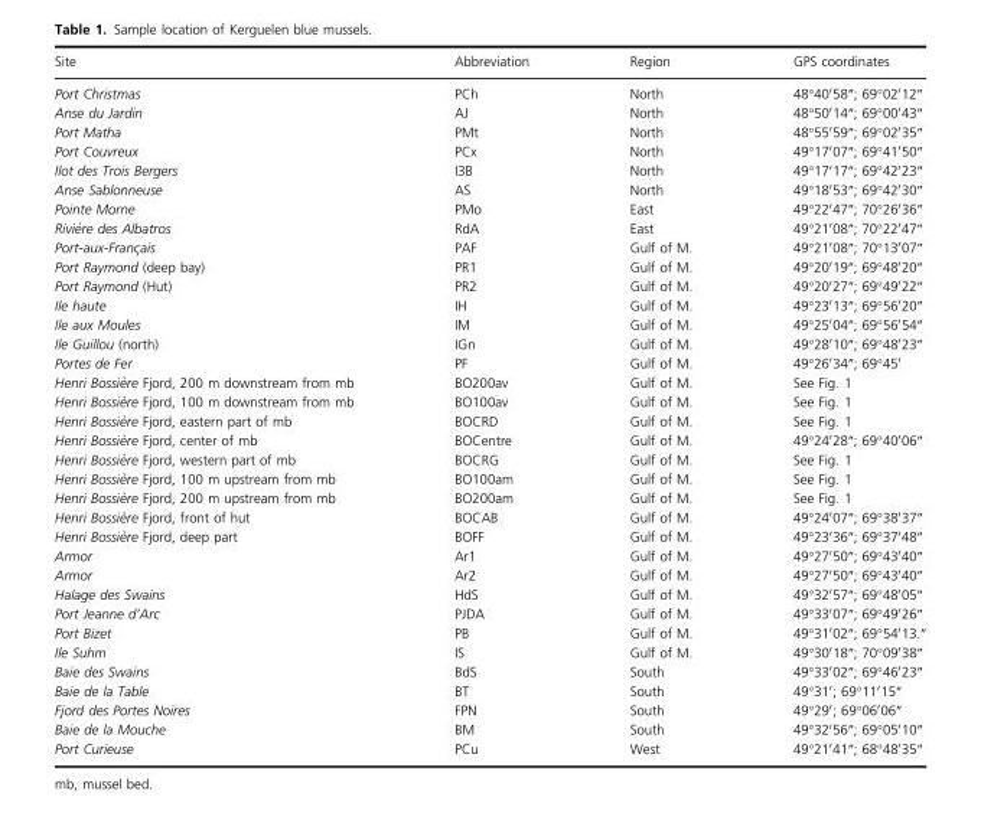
<table><thead><tr><td>Site</td><td>Abbreviation</td><td>Region</td><td>GPS coordinates</td></tr></thead><tbody><tr><td>Port Christmas</td><td>PCh</td><td>North</td><td>48°40′58″; 69°02′12″</td></tr><tr><td>Anse du Jardin</td><td>AJ</td><td>North</td><td>48°50′14″; 69°00′43″</td></tr><tr><td>Port Matha</td><td>PMt</td><td>North</td><td>48°55′59″; 69°02′35″</td></tr><tr><td>Port Couvreux</td><td>PCx</td><td>North</td><td>49°17′07″; 69°41′50″</td></tr><tr><td>Ilot des Trois Bergers</td><td>I3B</td><td>North</td><td>49°17′17″; 69°42′23″</td></tr><tr><td>Anse Sablonneuse</td><td>AS</td><td>North</td><td>49°18′53″; 69°42′30″</td></tr><tr><td>Pointe Morne</td><td>PMo</td><td>East</td><td>49°22′47″; 70°26′36″</td></tr><tr><td>Rivi�ere des Albatros</td><td>RdA</td><td>East</td><td>49°21′08″; 70°22′47″</td></tr><tr><td>Port-aux-Franc�ais</td><td>PAF</td><td>Gulf of M.</td><td>49°21′08″; 70°13′07″</td></tr><tr><td>Port Raymond (deep bay)</td><td>PR1</td><td>Gulf of M.</td><td>49°20′19″; 69°48′20″</td></tr><tr><td>Port Raymond (Hut)</td><td>PR2</td><td>Gulf of M.</td><td>49°20′27″; 69°49′22″</td></tr><tr><td>Ile haute</td><td>IH</td><td>Gulf of M.</td><td>49°23′13″; 69°56′20″</td></tr><tr><td>Ile aux Moules</td><td>IM</td><td>Gulf of M.</td><td>49°25′04″; 69°56′54″</td></tr><tr><td>Ile Guillou (north)</td><td>IGn</td><td>Gulf of M.</td><td>49°28′10″; 69°48′23″</td></tr><tr><td>Portes de Fer</td><td>PF</td><td>Gulf of M.</td><td>49°26′34″; 69°45′</td></tr><tr><td>Henri Bossi�ere Fjord, 200 m downstream from mb</td><td>BO200av</td><td>Gulf of M.</td><td>See Fig. 1</td></tr><tr><td>Henri Bossi�ere Fjord, 100 m downstream from mb</td><td>BO100av</td><td>Gulf of M.</td><td>See Fig. 1</td></tr><tr><td>Henri Bossi�ere Fjord, eastern part of mb</td><td>BOCRD</td><td>Gulf of M.</td><td>See Fig. 1</td></tr><tr><td>Henri Bossi�ere Fjord, center of mb</td><td>BOCentre</td><td>Gulf of M.</td><td>49°24′28″; 69°40′06″</td></tr><tr><td>Henri Bossi�ere Fjord, western part of mb</td><td>BOCRG</td><td>Gulf of M.</td><td>See Fig. 1</td></tr><tr><td>Henri Bossi�ere Fjord, 100 m upstream from mb</td><td>BO100am</td><td>Gulf of M.</td><td>See Fig. 1</td></tr><tr><td>Henri Bossi�ere Fjord, 200 m upstream from mb</td><td>BO200am</td><td>Gulf of M.</td><td>See Fig. 1</td></tr><tr><td>Henri Bossi�ere Fjord, front of hut</td><td>BOCAB</td><td>Gulf of M.</td><td>49°24′07″; 69°38′37″</td></tr><tr><td>Henri Bossi�ere Fjord, deep part</td><td>BOFF</td><td>Gulf of M.</td><td>49°23′36″; 69°37′48″</td></tr><tr><td>Armor</td><td>Ar1</td><td>Gulf of M.</td><td>49°27′50″; 69°43′40″</td></tr><tr><td>Armor</td><td>Ar2</td><td>Gulf of M.</td><td>49°27′50″; 69°43′40″</td></tr><tr><td>Halage des Swains</td><td>HdS</td><td>Gulf of M.</td><td>49°32′57″; 69°48′05″</td></tr><tr><td>Port Jeanne d’Arc</td><td>PJDA</td><td>Gulf of M.</td><td>49°33′07″; 69°49′26″</td></tr><tr><td>Port Bizet</td><td>PB</td><td>Gulf of M.</td><td>49°31′02″; 69°54′13.″</td></tr><tr><td>Ile Suhm</td><td>IS</td><td>Gulf of M.</td><td>49°30′18″; 70°09′38″</td></tr><tr><td>Baie des Swains</td><td>BdS</td><td>South</td><td>49°33′02″; 69°46′23″</td></tr><tr><td>Baie de la Table</td><td>BT</td><td>South</td><td>49°31′; 69°11′15″</td></tr><tr><td>Fjord des Portes Noires</td><td>FPN</td><td>South</td><td>49°29′; 69°06′06″</td></tr><tr><td>Baie de la Mouche</td><td>BM</td><td>South</td><td>49°32′56″; 69°05′10″</td></tr><tr><td>Port Curieuse</td><td>PCu</td><td>West</td><td>49°21′41″; 68°48′35″</td></tr></tbody></table>